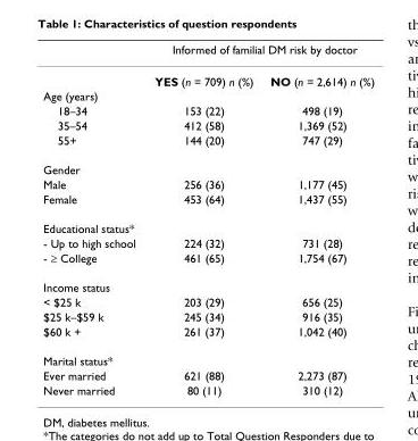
<table><thead><tr><td rowspan="2"></td><td colspan="2">Informed of familial DM risk by doctor</td></tr><tr><td>YES (n = 709) n (%)</td><td>NO (n = 2,614) n (%)</td></tr></thead><tbody><tr><td colspan="3">Age (years)</td></tr><tr><td>18–34</td><td>153 (22)</td><td>498 (19)</td></tr><tr><td>35–54</td><td>412 (58)</td><td>1,369 (52)</td></tr><tr><td>55+</td><td>144 (20)</td><td>747 (29)</td></tr><tr><td colspan="3">Gender</td></tr><tr><td>Male</td><td>256 (36)</td><td>1,177 (45)</td></tr><tr><td>Female</td><td>453 (64)</td><td>1,437 (55)</td></tr><tr><td colspan="3">Educational status*</td></tr><tr><td>- Up to high school</td><td>224 (32)</td><td>731 (28)</td></tr><tr><td>- ≥ College</td><td>461 (65)</td><td>1,754 (67)</td></tr><tr><td colspan="3">Income status</td></tr><tr><td>&lt; $25 k</td><td>203 (29)</td><td>656 (25)</td></tr><tr><td>$25 k–$59 k</td><td>245 (34)</td><td>916 (35)</td></tr><tr><td>$60 k +</td><td>261 (37)</td><td>1,042 (40)</td></tr><tr><td colspan="3">Marital status*</td></tr><tr><td>Ever married</td><td>621 (88)</td><td>2,273 (87)</td></tr><tr><td>Never married</td><td>80 (11)</td><td>310 (12)</td></tr></tbody></table>